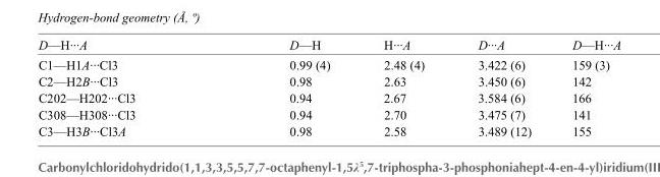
<table><tbody><tr><td>D—H···A</td><td>D—H</td><td>H···A</td><td>D···A</td><td>D—H···A</td></tr><tr><td>C1—H1A···Cl3</td><td>0.99 (4)</td><td>2.48 (4)</td><td>3.422 (6)</td><td>159 (3)</td></tr><tr><td>C2—H2B···Cl3</td><td>0.98</td><td>2.63</td><td>3.450 (6)</td><td>142</td></tr><tr><td>C202—H202···Cl3</td><td>0.94</td><td>2.67</td><td>3.584 (6)</td><td>166</td></tr><tr><td>C308—H308···Cl3</td><td>0.94</td><td>2.70</td><td>3.475 (7)</td><td>141</td></tr><tr><td>C3—H3B···Cl3A</td><td>0.98</td><td>2.58</td><td>3.489 (12)</td><td>155</td></tr></tbody></table>